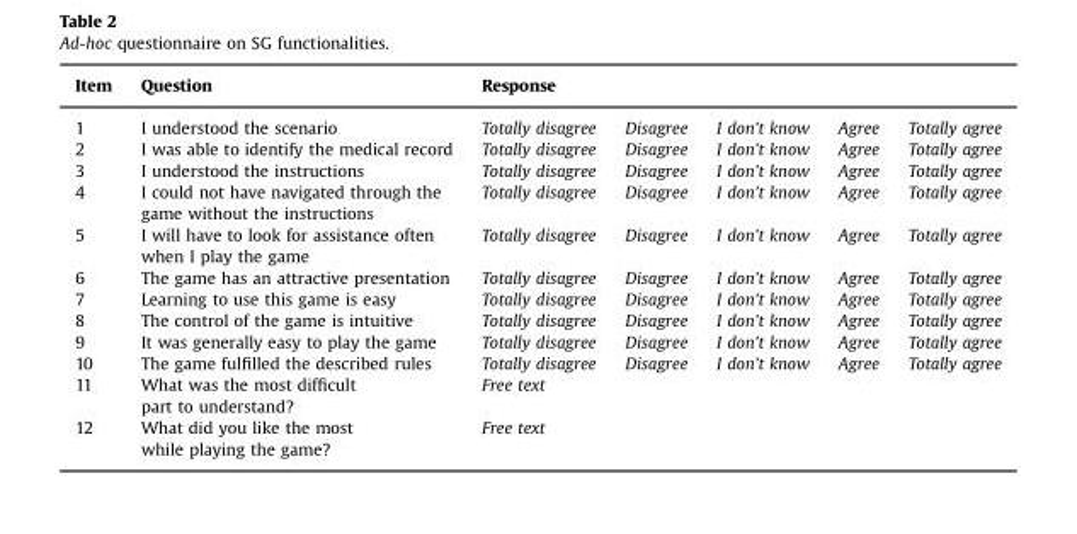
<table><thead><tr><td rowspan="2">Item 1</td><td rowspan="2">Question I understood the scenario</td><td colspan="5">Response</td></tr><tr><td>Totally disagree</td><td>Disagree</td><td>I don’t know</td><td>Agree</td><td>Totally agree</td></tr></thead><tbody><tr><td>2</td><td>I was able to identify the medical record</td><td>Totally disagree</td><td>Disagree</td><td>I don’t know</td><td>Agree</td><td>Totally agree</td></tr><tr><td>3</td><td>I understood the instructions</td><td>Totally disagree</td><td>Disagree</td><td>I don’t know</td><td>Agree</td><td>Totally agree</td></tr><tr><td>4</td><td>I could not have navigated through the game without the instructions</td><td>Totally disagree</td><td>Disagree</td><td>I don’t know</td><td>Agree</td><td>Totally agree</td></tr><tr><td>5</td><td>I will have to look for assistance often when I play the game</td><td>Totally disagree</td><td>Disagree</td><td>I don’t know</td><td>Agree</td><td>Totally agree</td></tr><tr><td>6</td><td>The game has an attractive presentation</td><td>Totally disagree</td><td>Disagree</td><td>I don’t know</td><td>Agree</td><td>Totally agree</td></tr><tr><td>7</td><td>Learning to use this game is easy</td><td>Totally disagree</td><td>Disagree</td><td>I don’t know</td><td>Agree</td><td>Totally agree</td></tr><tr><td>8</td><td>The control of the game is intuitive</td><td>Totally disagree</td><td>Disagree</td><td>I don’t know</td><td>Agree</td><td>Totally agree</td></tr><tr><td>9</td><td>It was generally easy to play the game</td><td>Totally disagree</td><td>Disagree</td><td>I don’t know</td><td>Agree</td><td>Totally agree</td></tr><tr><td>10</td><td>The game fulfilled the described rules</td><td>Totally disagree</td><td>Disagree</td><td>I don’t know</td><td>Agree</td><td>Totally agree</td></tr><tr><td>11</td><td>What was the most difficult part to understand?</td><td colspan="5">Free text</td></tr><tr><td>12</td><td>What did you like the most while playing the game?</td><td colspan="5">Free text</td></tr></tbody></table>